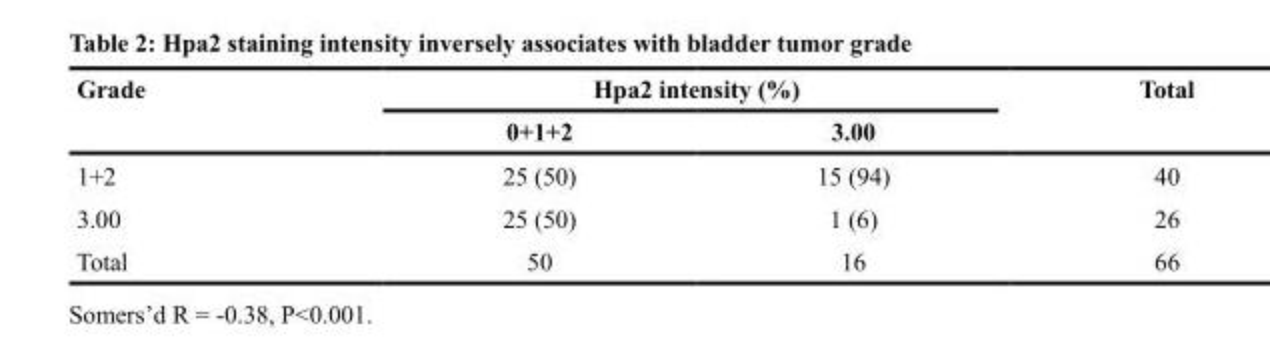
<table><thead><tr><td rowspan="2">Grade</td><td colspan="2">Hpa2 intensity (%)</td><td rowspan="2">Total</td></tr><tr><td>0+1+2</td><td>3.00</td></tr></thead><tbody><tr><td>1+2</td><td>25 (50)</td><td>15 (94)</td><td>40</td></tr><tr><td>3.00</td><td>25 (50)</td><td>1 (6)</td><td>26</td></tr><tr><td>Total</td><td>50</td><td>16</td><td>66</td></tr></tbody></table>